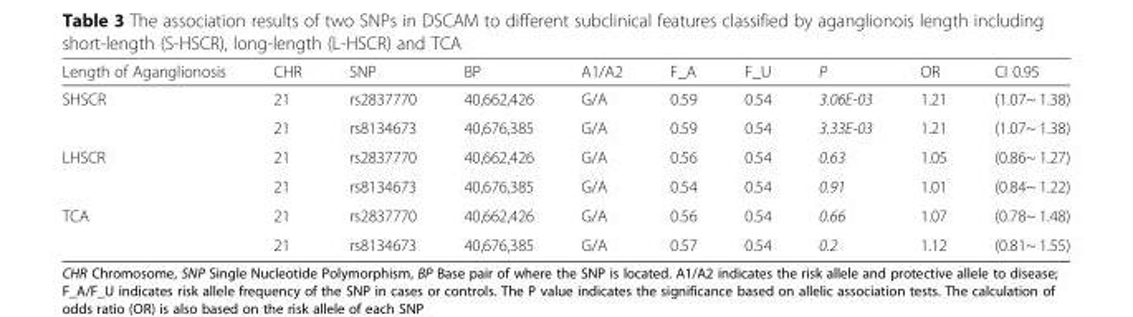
<table><thead><tr><td>Length of Aganglionosis</td><td>CHR</td><td>SNP</td><td>BP</td><td>A1/A2</td><td>F_A</td><td>F_U</td><td>P</td><td>OR</td><td>CI 0.95</td></tr></thead><tbody><tr><td rowspan="2">SHSCR</td><td>21</td><td>rs2837770</td><td>40,662,426</td><td>G/A</td><td>0.59</td><td>0.54</td><td>3.06E-03</td><td>1.21</td><td>(1.07~ 1.38)</td></tr><tr><td>21</td><td>rs8134673</td><td>40,676,385</td><td>G/A</td><td>0.59</td><td>0.54</td><td>3.33E-03</td><td>1.21</td><td>(1.07~ 1.38)</td></tr><tr><td rowspan="2">LHSCR</td><td>21</td><td>rs2837770</td><td>40,662,426</td><td>G/A</td><td>0.56</td><td>0.54</td><td>0.63</td><td>1.05</td><td>(0.86~ 1.27)</td></tr><tr><td>21</td><td>rs8134673</td><td>40,676,385</td><td>G/A</td><td>0.54</td><td>0.54</td><td>0.91</td><td>1.01</td><td>(0.84~ 1.22)</td></tr><tr><td rowspan="2">TCA</td><td>21</td><td>rs2837770</td><td>40,662,426</td><td>G/A</td><td>0.56</td><td>0.54</td><td>0.66</td><td>1.07</td><td>(0.78~ 1.48)</td></tr><tr><td>21</td><td>rs8134673</td><td>40,676,385</td><td>G/A</td><td>0.57</td><td>0.54</td><td>0.2</td><td>1.12</td><td>(0.81~ 1.55)</td></tr></tbody></table>